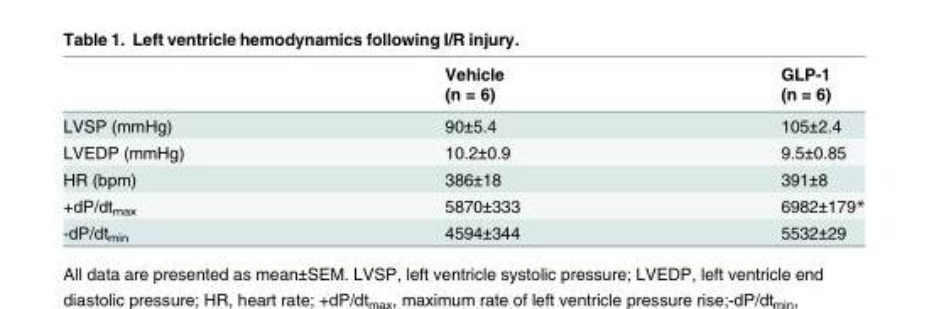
<table><thead><tr><td rowspan="2"></td><td rowspan="2">Vehicle (n = 6)</td><td rowspan="2">GLP-1 (n = 6)</td></tr><tr></tr></thead><tbody><tr><td>LVSP (mmHg)</td><td>90±5.4</td><td>105±2.4</td></tr><tr><td>LVEDP (mmHg)</td><td>10.2±0.9</td><td>9.5±0.85</td></tr><tr><td>HR (bpm)</td><td>386±18</td><td>391±8</td></tr><tr><td>+dP/dt<sub>max</sub></td><td>5870±333</td><td>6982±179*</td></tr><tr><td>-dP/dt<sub>min</sub></td><td>4594±344</td><td>5532±29</td></tr></tbody></table>